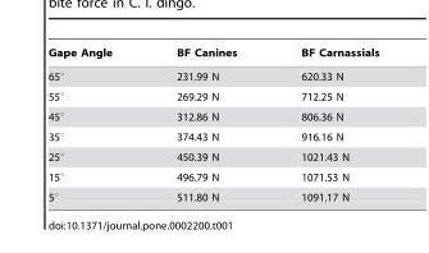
<table><thead><tr><td>Gape Angle</td><td>BF Canines</td><td>BF Carnassials</td></tr></thead><tbody><tr><td>65°</td><td>231.99 N</td><td>620.33 N</td></tr><tr><td>55°</td><td>269.29 N</td><td>712.25 N</td></tr><tr><td>45°</td><td>312.86 N</td><td>806.36 N</td></tr><tr><td>35°</td><td>374.43 N</td><td>916.16 N</td></tr><tr><td>25°</td><td>450.39 N</td><td>1021.43 N</td></tr><tr><td>15°</td><td>496.79 N</td><td>1071.53 N</td></tr><tr><td>5°</td><td>511.80 N</td><td>1091.17 N</td></tr></tbody></table>